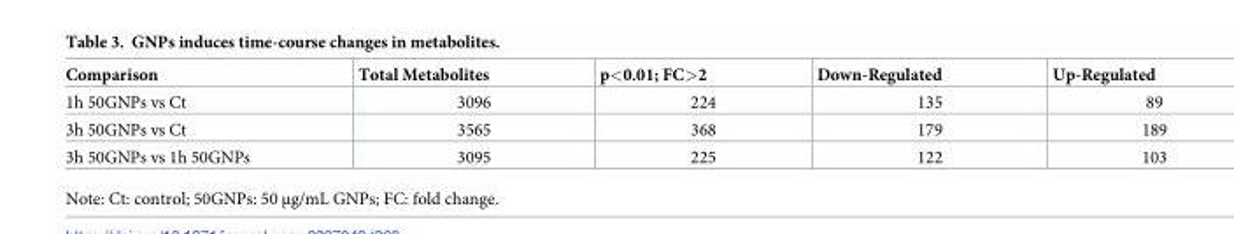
<table><thead><tr><td>Comparison</td><td>Total Metabolites</td><td>p&lt;0.01; FC&gt;2</td><td>Down-Regulated</td><td>Up-Regulated</td></tr></thead><tbody><tr><td>1h 50GNPs vs Ct</td><td>3096</td><td>224</td><td>135</td><td>89</td></tr><tr><td>3h 50GNPs vs Ct</td><td>3565</td><td>368</td><td>179</td><td>189</td></tr><tr><td>3h 50GNPs vs 1h 50GNPs</td><td>3095</td><td>225</td><td>122</td><td>103</td></tr></tbody></table>